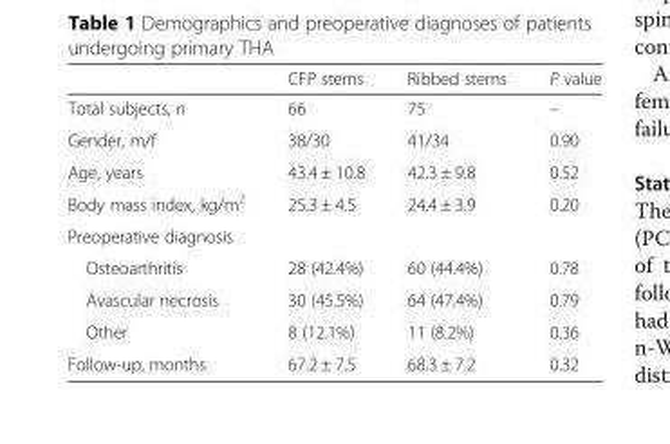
<table><thead><tr><td></td><td>CFP stems</td><td>Ribbed stems</td><td>P value</td></tr></thead><tbody><tr><td>Total subjects, n</td><td>66</td><td>75</td><td>–</td></tr><tr><td>Gender, m/f</td><td>38/30</td><td>41/34</td><td>0.90</td></tr><tr><td>Age, years</td><td>43.4 ± 10.8</td><td>42.3 ± 9.8</td><td>0.52</td></tr><tr><td>Body mass index, kg/m<sup>2</sup></td><td>25.3 ± 4.5</td><td>24.4 ± 3.9</td><td>0.20</td></tr><tr><td colspan="4">Preoperative diagnosis</td></tr><tr><td>Osteoarthritis</td><td>28 (42.4%)</td><td>60 (44.4%)</td><td>0.78</td></tr><tr><td>Avascular necrosis</td><td>30 (45.5%)</td><td>64 (47.4%)</td><td>0.79</td></tr><tr><td>Other</td><td>8 (12.1%)</td><td>11 (8.2%)</td><td>0.36</td></tr><tr><td>Follow-up, months</td><td>67.2 ± 7.5</td><td>68.3 ± 7.2</td><td>0.32</td></tr></tbody></table>